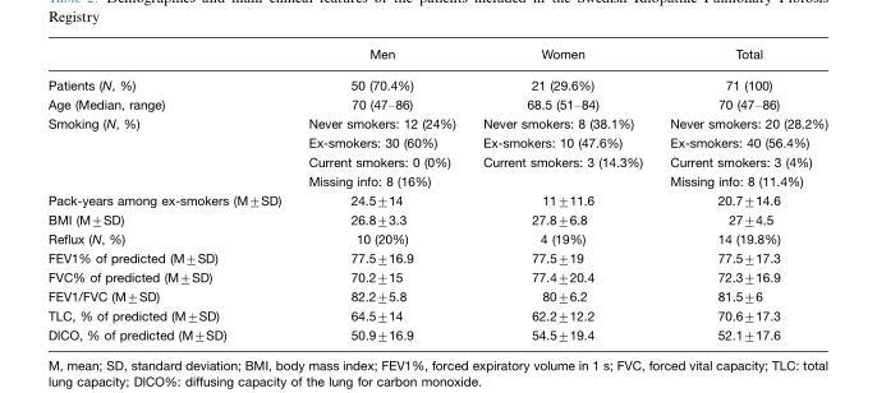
<table><thead><tr><td></td><td>Men</td><td>Women</td><td>Total</td></tr></thead><tbody><tr><td>Patients (N, %)</td><td>50 (70.4%)</td><td>21 (29.6%)</td><td>71 (100)</td></tr><tr><td>Age (Median, range)</td><td>70 (47–86)</td><td>68.5 (51–84)</td><td>70 (47–86)</td></tr><tr><td>Smoking (N, %)</td><td>Never smokers: 12 (24%) Ex-smokers: 30 (60%) Current smokers: 0 (0%) Missing info: 8 (16%)</td><td>Never smokers: 8 (38.1%) Ex-smokers: 10 (47.6%) Current smokers: 3 (14.3%)</td><td>Never smokers: 20 (28.2%) Ex-smokers: 40 (56.4%) Current smokers: 3 (4%) Missing info: 8 (11.4%)</td></tr><tr><td>Pack-years among ex-smokers (M±SD)</td><td>24.5±14</td><td>11±11.6</td><td>20.7±14.6</td></tr><tr><td>BMI (M±SD)</td><td>26.8±3.3</td><td>27.8±6.8</td><td>27±4.5</td></tr><tr><td>Reflux (N, %)</td><td>10 (20%)</td><td>4 (19%)</td><td>14 (19.8%)</td></tr><tr><td>FEV1% of predicted (M±SD)</td><td>77.5±16.9</td><td>77.5±19</td><td>77.5±17.3</td></tr><tr><td>FVC% of predicted (M±SD)</td><td>70.2±15</td><td>77.4±20.4</td><td>72.3±16.9</td></tr><tr><td>FEV1/FVC (M±SD)</td><td>82.2±5.8</td><td>80±6.2</td><td>81.5±6</td></tr><tr><td>TLC, % of predicted (M±SD)</td><td>64.5±14</td><td>62.2±12.2</td><td>70.6±17.3</td></tr><tr><td>DlCO, % of predicted (M±SD)</td><td>50.9±16.9</td><td>54.5±19.4</td><td>52.1±17.6</td></tr></tbody></table>